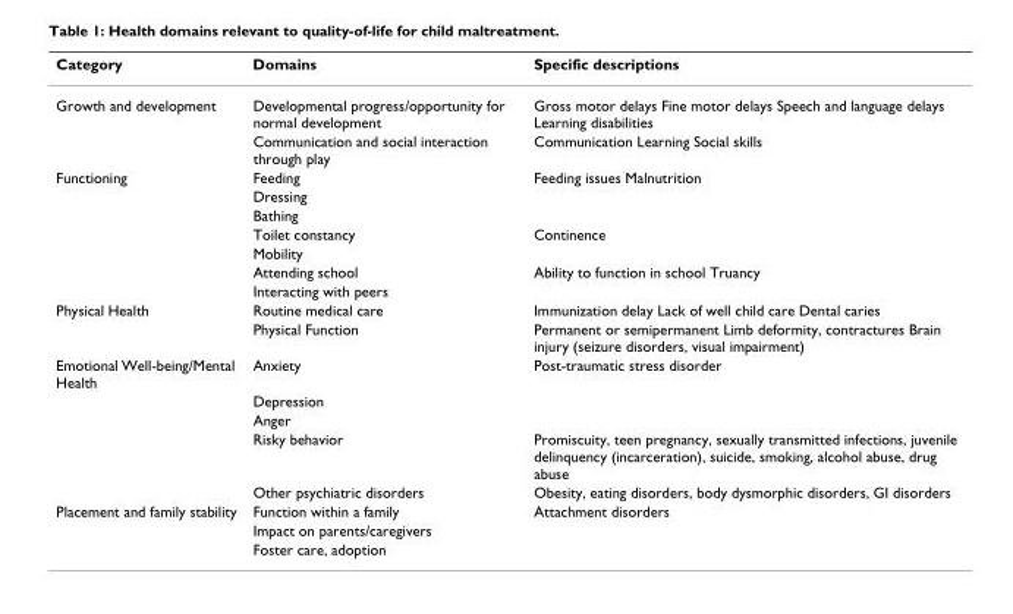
<table><thead><tr><td>Category</td><td>Domains</td><td>Specific descriptions</td></tr></thead><tbody><tr><td rowspan="2">Growth and development</td><td>Developmental progress/opportunity for normal development</td><td>Gross motor delays Fine motor delays Speech and language delays Learning disabilities</td></tr><tr><td>Communication and social interaction through play</td><td>Communication Learning Social skills</td></tr><tr><td rowspan="7">Functioning</td><td>Feeding</td><td>Feeding issues Malnutrition</td></tr><tr><td>Dressing</td><td></td></tr><tr><td>Bathing</td><td></td></tr><tr><td>Toilet constancy</td><td>Continence</td></tr><tr><td>Mobility</td><td></td></tr><tr><td>Attending school</td><td>Ability to function in school Truancy</td></tr><tr><td>Interacting with peers</td><td></td></tr><tr><td rowspan="2">Physical Health</td><td>Routine medical care</td><td>Immunization delay Lack of well child care Dental caries</td></tr><tr><td>Physical Function</td><td>Permanent or semipermanent Limb deformity, contractures Brain injury (seizure disorders, visual impairment)</td></tr><tr><td rowspan="5">Emotional Well-being/Mental Health</td><td>Anxiety</td><td>Post-traumatic stress disorder</td></tr><tr><td>Depression</td><td></td></tr><tr><td>Anger</td><td></td></tr><tr><td>Risky behavior</td><td>Promiscuity, teen pregnancy, sexually transmitted infections, juvenile delinquency (incarceration), suicide, smoking, alcohol abuse, drug abuse</td></tr><tr><td>Other psychiatric disorders</td><td>Obesity, eating disorders, body dysmorphic disorders, GI disorders</td></tr><tr><td rowspan="3">Placement and family stability</td><td>Function within a family</td><td>Attachment disorders</td></tr><tr><td>Impact on parents/caregivers</td><td></td></tr><tr><td>Foster care, adoption</td><td></td></tr></tbody></table>